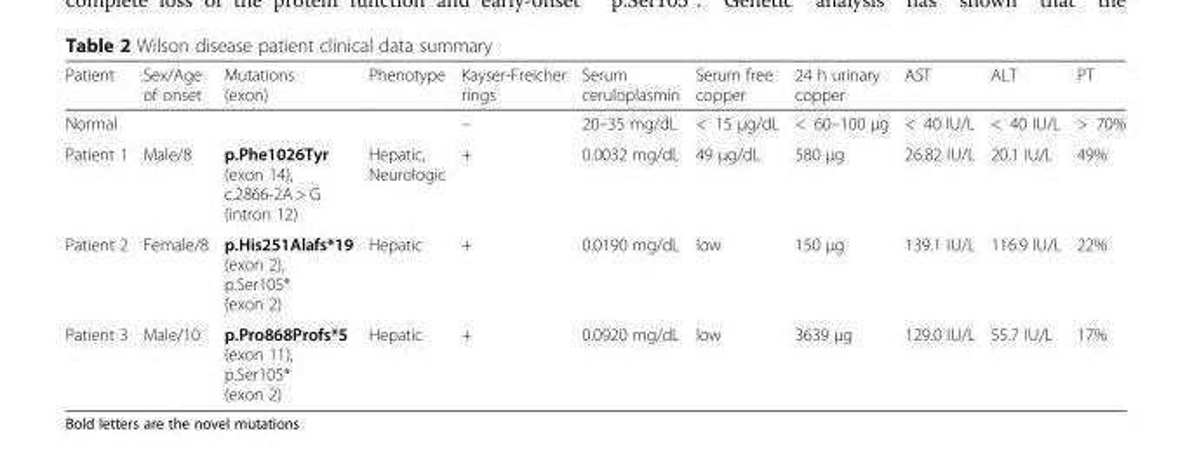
<table><thead><tr><td>Patient</td><td>Sex/Age of onset</td><td>Mutations (exon)</td><td>Phenotype</td><td>Kayser-Freicher rings</td><td>Serum ceruloplasmin</td><td>Serum free copper</td><td>24 h urinary copper</td><td>AST</td><td>ALT</td><td>PT</td></tr></thead><tbody><tr><td>Normal</td><td></td><td></td><td></td><td>–</td><td>20–35 mg/dL</td><td>&lt; 15 μg/dL</td><td>&lt; 60–100 μg</td><td>&lt; 40 IU/L</td><td>&lt; 40 IU/L</td><td>&gt; 70%</td></tr><tr><td>Patient 1</td><td>Male/8</td><td>p.Phe1026Tyr (exon 14), c.2866-2A &gt; G (intron 12)</td><td>Hepatic, Neurologic</td><td>+</td><td>0.0032 mg/dL</td><td>49 μg/dL</td><td>580 μg</td><td>26.82 IU/L</td><td>20.1 IU/L</td><td>49%</td></tr><tr><td>Patient 2</td><td>Female/8</td><td>p.His251Alafs*19 (exon 2), p.Ser105* (exon 2)</td><td>Hepatic</td><td>+</td><td>0.0190 mg/dL</td><td>low</td><td>150 μg</td><td>139.1 IU/L</td><td>116.9 IU/L</td><td>22%</td></tr><tr><td>Patient 3</td><td>Male/10</td><td>p.Pro868Profs*5 (exon 11), p.Ser105* (exon 2)</td><td>Hepatic</td><td>+</td><td>0.0920 mg/dL</td><td>low</td><td>3639 μg</td><td>129.0 IU/L</td><td>55.7 IU/L</td><td>17%</td></tr></tbody></table>